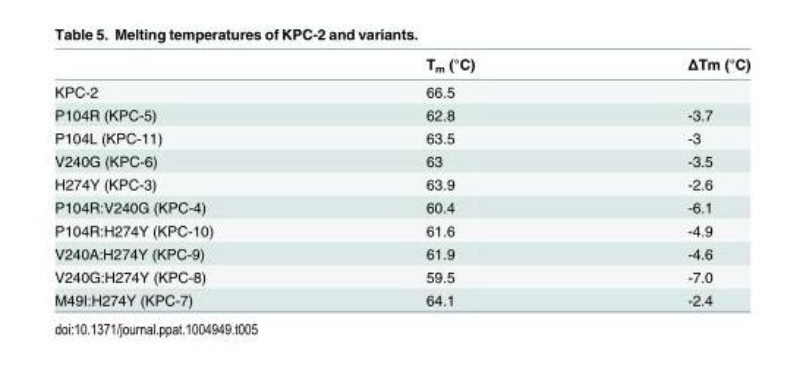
<table><thead><tr><td></td><td>T<sub>m</sub> (°C)</td><td>ΔTm (°C)</td></tr></thead><tbody><tr><td>KPC-2</td><td>66.5</td><td></td></tr><tr><td>P104R (KPC-5)</td><td>62.8</td><td>-3.7</td></tr><tr><td>P104L (KPC-11)</td><td>63.5</td><td>-3</td></tr><tr><td>V240G (KPC-6)</td><td>63</td><td>-3.5</td></tr><tr><td>H274Y (KPC-3)</td><td>63.9</td><td>-2.6</td></tr><tr><td>P104R:V240G (KPC-4)</td><td>60.4</td><td>-6.1</td></tr><tr><td>P104R:H274Y (KPC-10)</td><td>61.6</td><td>-4.9</td></tr><tr><td>V240A:H274Y (KPC-9)</td><td>61.9</td><td>-4.6</td></tr><tr><td>V240G:H274Y (KPC-8)</td><td>59.5</td><td>-7.0</td></tr><tr><td>M49I:H274Y (KPC-7)</td><td>64.1</td><td>-2.4</td></tr></tbody></table>